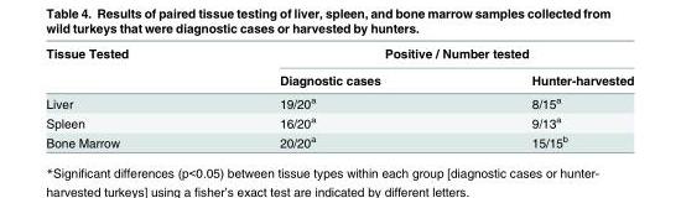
<table><thead><tr><td rowspan="2">Tissue Tested</td><td colspan="2">Positive / Number tested</td></tr><tr><td>Diagnostic cases</td><td>Hunter-harvested</td></tr></thead><tbody><tr><td>Liver</td><td>19/20<sup>a</sup></td><td>8/15<sup>a</sup></td></tr><tr><td>Spleen</td><td>16/20<sup>a</sup></td><td>9/13<sup>a</sup></td></tr><tr><td>Bone Marrow</td><td>20/20<sup>a</sup></td><td>15/15<sup>b</sup></td></tr></tbody></table>